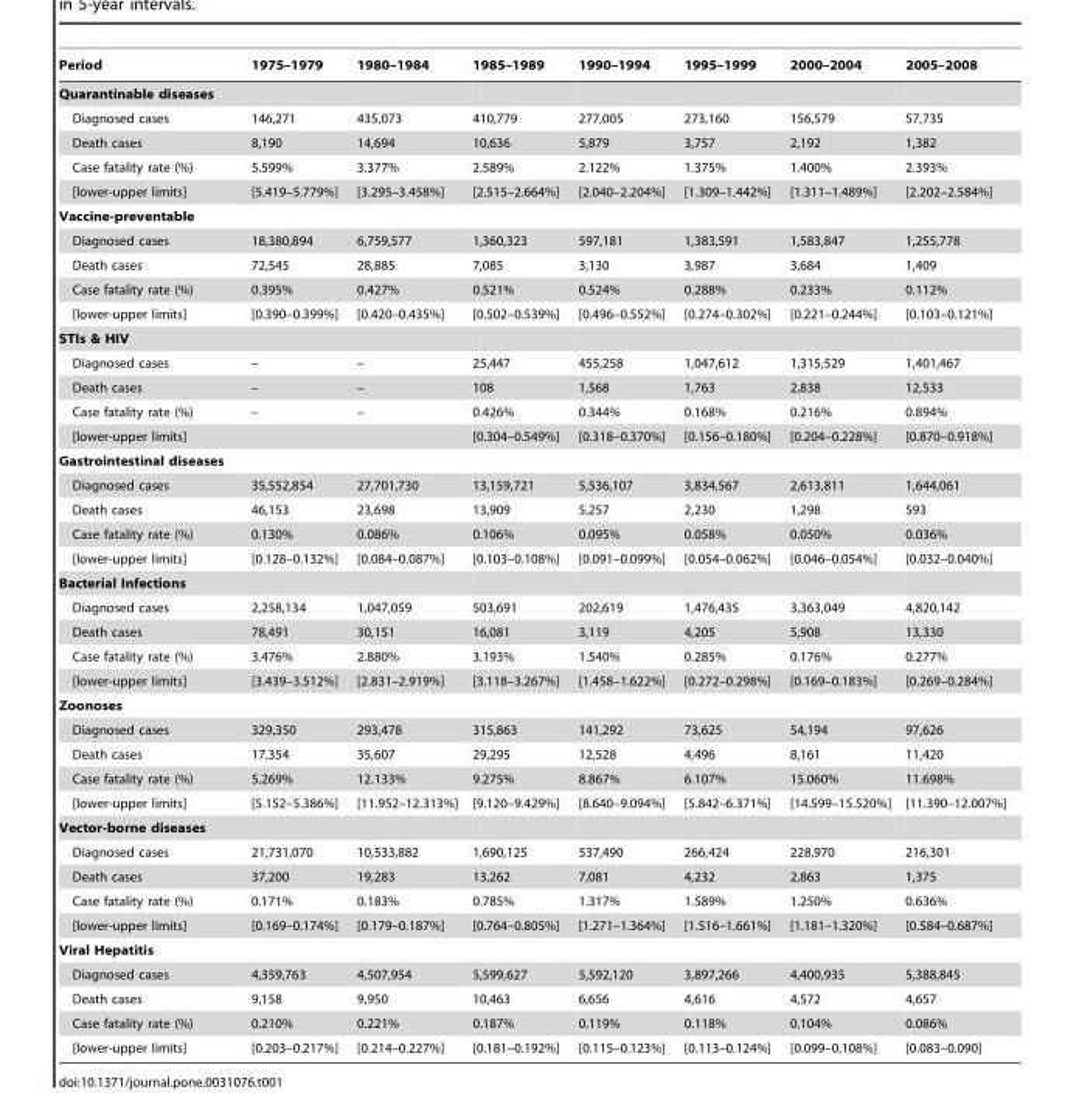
<table><thead><tr><td>Period</td><td>1975–1979</td><td>1980–1984</td><td>1985–1989</td><td>1990–1994</td><td>1995–1999</td><td>2000–2004</td><td>2005–2008</td></tr></thead><tbody><tr><td colspan="8">Quarantinable diseases</td></tr><tr><td>Diagnosed cases</td><td>146,271</td><td>435,073</td><td>410,779</td><td>277,005</td><td>273,160</td><td>156,579</td><td>57,735</td></tr><tr><td>Death cases</td><td>8,190</td><td>14,694</td><td>10,636</td><td>5,879</td><td>3,757</td><td>2,192</td><td>1,382</td></tr><tr><td>Case fatality rate (%)</td><td>5.599%</td><td>3.377%</td><td>2.589%</td><td>2.122%</td><td>1.375%</td><td>1.400%</td><td>2.393%</td></tr><tr><td>[lower-upper limits]</td><td>[5.419–5.779%]</td><td>[3.295–3.458%]</td><td>[2.515–2.664%]</td><td>[2.040–2.204%]</td><td>[1.309–1.442%]</td><td>[1.311–1.489%]</td><td>[2.202–2.584%]</td></tr><tr><td colspan="8">Vaccine-preventable</td></tr><tr><td>Diagnosed cases</td><td>18,380,894</td><td>6,759,577</td><td>1,360,323</td><td>597,181</td><td>1,383,591</td><td>1,583,847</td><td>1,255,778</td></tr><tr><td>Death cases</td><td>72,545</td><td>28,885</td><td>7,085</td><td>3,130</td><td>3,987</td><td>3,684</td><td>1,409</td></tr><tr><td>Case fatality rate (%)</td><td>0.395%</td><td>0.427%</td><td>0.521%</td><td>0.524%</td><td>0.288%</td><td>0.233%</td><td>0.112%</td></tr><tr><td>[lower-upper limits]</td><td>[0.390–0.399%]</td><td>[0.420–0.435%]</td><td>[0.502–0.539%]</td><td>[0.496–0.552%]</td><td>[0.274–0.302%]</td><td>[0.221–0.244%]</td><td>[0.103–0.121%]</td></tr><tr><td colspan="8">STIs &amp; HIV</td></tr><tr><td>Diagnosed cases</td><td>–</td><td>–</td><td>25,447</td><td>455,258</td><td>1,047,612</td><td>1,315,529</td><td>1,401,467</td></tr><tr><td>Death cases</td><td>–</td><td>–</td><td>108</td><td>1,568</td><td>1,763</td><td>2,838</td><td>12,533</td></tr><tr><td>Case fatality rate (%)</td><td>–</td><td>–</td><td>0.426%</td><td>0.344%</td><td>0.168%</td><td>0.216%</td><td>0.894%</td></tr><tr><td>[lower-upper limits]</td><td></td><td></td><td>[0.304–0.549%]</td><td>[0.318–0.370%]</td><td>[0.156–0.180%]</td><td>[0.204–0.228%]</td><td>[0.870–0.918%]</td></tr><tr><td colspan="8">Gastrointestinal diseases</td></tr><tr><td>Diagnosed cases</td><td>35,552,854</td><td>27,701,730</td><td>13,159,721</td><td>5,536,107</td><td>3,834,567</td><td>2,613,811</td><td>1,644,061</td></tr><tr><td>Death cases</td><td>46,153</td><td>23,698</td><td>13,909</td><td>5,257</td><td>2,230</td><td>1,298</td><td>593</td></tr><tr><td>Case fatality rate (%)</td><td>0.130%</td><td>0.086%</td><td>0.106%</td><td>0.095%</td><td>0.058%</td><td>0.050%</td><td>0.036%</td></tr><tr><td>[lower-upper limits]</td><td>[0.128–0.132%]</td><td>[0.084–0.087%]</td><td>[0.103–0.108%]</td><td>[0.091–0.099%]</td><td>[0.054–0.062%]</td><td>[0.046–0.054%]</td><td>[0.032–0.040%]</td></tr><tr><td colspan="8">Bacterial Infections</td></tr><tr><td>Diagnosed cases</td><td>2,258,134</td><td>1,047,059</td><td>503,691</td><td>202,619</td><td>1,476,435</td><td>3,363,049</td><td>4,820,142</td></tr><tr><td>Death cases</td><td>78,491</td><td>30,151</td><td>16,081</td><td>3,119</td><td>4,205</td><td>5,908</td><td>13,330</td></tr><tr><td>Case fatality rate (%)</td><td>3.476%</td><td>2.880%</td><td>3.193%</td><td>1.540%</td><td>0.285%</td><td>0.176%</td><td>0.277%</td></tr><tr><td>[lower-upper limits]</td><td>[3.439–3.512%]</td><td>[2.831–2.919%]</td><td>[3.118–3.267%]</td><td>[1.458–1.622%]</td><td>[0.272–0.298%]</td><td>[0.169–0.183%]</td><td>[0.269–0.284%]</td></tr><tr><td colspan="8">Zoonoses</td></tr><tr><td>Diagnosed cases</td><td>329,350</td><td>293,478</td><td>315,863</td><td>141,292</td><td>73,625</td><td>54,194</td><td>97,626</td></tr><tr><td>Death cases</td><td>17,354</td><td>35,607</td><td>29,295</td><td>12,528</td><td>4,496</td><td>8,161</td><td>11,420</td></tr><tr><td>Case fatality rate (%)</td><td>5.269%</td><td>12.133%</td><td>9.275%</td><td>8.867%</td><td>6.107%</td><td>15.060%</td><td>11.698%</td></tr><tr><td>[lower-upper limits]</td><td>[5.152–5.386%]</td><td>[11.952–12.313%]</td><td>[9.120–9.429%]</td><td>[8.640–9.094%]</td><td>[5.842–6.371%]</td><td>[14.599–15.520%]</td><td>[11.390–12.007%]</td></tr><tr><td colspan="8">Vector-borne diseases</td></tr><tr><td>Diagnosed cases</td><td>21,731,070</td><td>10,533,882</td><td>1,690,125</td><td>537,490</td><td>266,424</td><td>228,970</td><td>216,301</td></tr><tr><td>Death cases</td><td>37,200</td><td>19,283</td><td>13,262</td><td>7,081</td><td>4,232</td><td>2,863</td><td>1,375</td></tr><tr><td>Case fatality rate (%)</td><td>0.171%</td><td>0.183%</td><td>0.785%</td><td>1.317%</td><td>1.589%</td><td>1.250%</td><td>0.636%</td></tr><tr><td>[lower-upper limits]</td><td>[0.169–0.174%]</td><td>[0.179–0.187%]</td><td>[0.764–0.805%]</td><td>[1.271–1.364%]</td><td>[1.516–1.661%]</td><td>[1.181–1.320%]</td><td>[0.584–0.687%]</td></tr><tr><td colspan="8">Viral Hepatitis</td></tr><tr><td>Diagnosed cases</td><td>4,359,763</td><td>4,507,954</td><td>5,599,627</td><td>5,592,120</td><td>3,897,266</td><td>4,400,935</td><td>5,388,845</td></tr><tr><td>Death cases</td><td>9,158</td><td>9,950</td><td>10,463</td><td>6,656</td><td>4,616</td><td>4,572</td><td>4,657</td></tr><tr><td>Case fatality rate (%)</td><td>0.210%</td><td>0.221%</td><td>0.187%</td><td>0.119%</td><td>0.118%</td><td>0.104%</td><td>0.086%</td></tr><tr><td>[lower-upper limits]</td><td>[0.203–0.217%]</td><td>[0.214–0.227%]</td><td>[0.181–0.192%]</td><td>[0.115–0.123%]</td><td>[0.113–0.124%]</td><td>[0.099–0.108%]</td><td>[0.083–0.090]</td></tr></tbody></table>